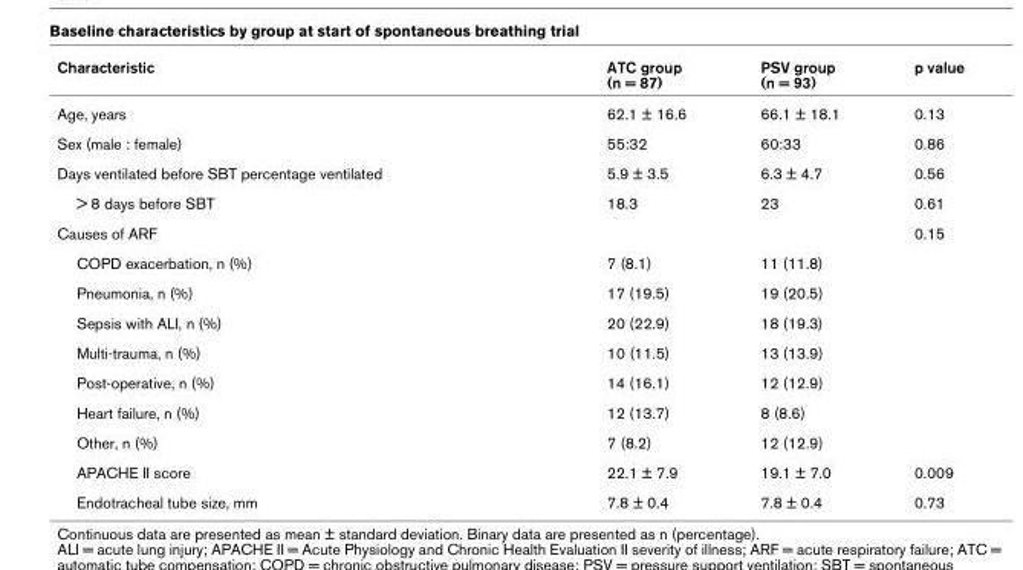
<table><thead><tr><td>Characteristic</td><td>ATC group (n = 87)</td><td>PSV group (n = 93)</td><td>p value</td></tr></thead><tbody><tr><td>Age, years</td><td>62.1 ± 16.6</td><td>66.1 ± 18.1</td><td>0.13</td></tr><tr><td>Sex (male : female)</td><td>55:32</td><td>60:33</td><td>0.86</td></tr><tr><td>Days ventilated before SBT percentage ventilated</td><td>5.9 ± 3.5</td><td>6.3 ± 4.7</td><td>0.56</td></tr><tr><td>&gt; 8 days before SBT</td><td>18.3</td><td>23</td><td>0.61</td></tr><tr><td>Causes of ARF</td><td></td><td></td><td>0.15</td></tr><tr><td>COPD exacerbation, n (%)</td><td>7 (8.1)</td><td>11 (11.8)</td><td></td></tr><tr><td>Pneumonia, n (%)</td><td>17 (19.5)</td><td>19 (20.5)</td><td></td></tr><tr><td>Sepsis with ALI, n (%)</td><td>20 (22.9)</td><td>18 (19.3)</td><td></td></tr><tr><td>Multi-trauma, n (%)</td><td>10 (11.5)</td><td>13 (13.9)</td><td></td></tr><tr><td>Post-operative, n (%)</td><td>14 (16.1)</td><td>12 (12.9)</td><td></td></tr><tr><td>Heart failure, n (%)</td><td>12 (13.7)</td><td>8 (8.6)</td><td></td></tr><tr><td>Other, n (%)</td><td>7 (8.2)</td><td>12 (12.9)</td><td></td></tr><tr><td>APACHE II score</td><td>22.1 ± 7.9</td><td>19.1 ± 7.0</td><td>0.009</td></tr><tr><td>Endotracheal tube size, mm</td><td>7.8 ± 0.4</td><td>7.8 ± 0.4</td><td>0.73</td></tr></tbody></table>